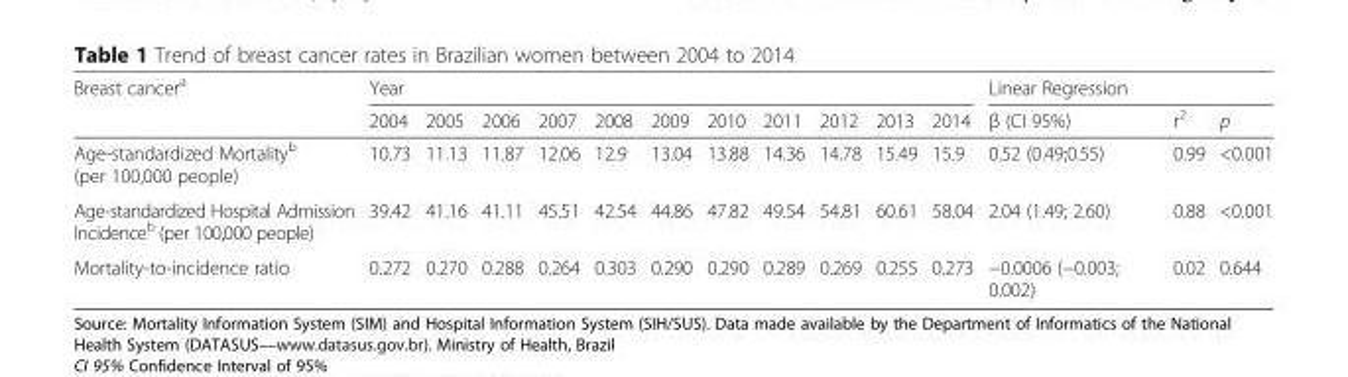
<table><thead><tr><td rowspan="2">Breast cancer<sup>a</sup></td><td colspan="11">Year</td><td colspan="3">Linear Regression</td></tr><tr><td>2004</td><td>2005</td><td>2006</td><td>2007</td><td>2008</td><td>2009</td><td>2010</td><td>2011</td><td>2012</td><td>2013</td><td>2014</td><td>β (CI 95%)</td><td>r<sup>2</sup></td><td>p</td></tr></thead><tbody><tr><td>Age-standardized Mortality<sup>b</sup> (per 100,000 people)</td><td>10.73</td><td>11.13</td><td>11.87</td><td>12.06</td><td>12.9</td><td>13.04</td><td>13.88</td><td>14.36</td><td>14.78</td><td>15.49</td><td>15.9</td><td>0.52 (0.49;0.55)</td><td>0.99</td><td>&lt;0.001</td></tr><tr><td>Age-standardized Hospital Admission Incidence<sup>b</sup> (per 100,000 people)</td><td>39.42</td><td>41.16</td><td>41.11</td><td>45.51</td><td>42.54</td><td>44.86</td><td>47.82</td><td>49.54</td><td>54.81</td><td>60.61</td><td>58.04</td><td>2.04 (1.49; 2.60)</td><td>0.88</td><td>&lt;0.001</td></tr><tr><td>Mortality-to-incidence ratio</td><td>0.272</td><td>0.270</td><td>0.288</td><td>0.264</td><td>0.303</td><td>0.290</td><td>0.290</td><td>0.289</td><td>0.269</td><td>0.255</td><td>0.273</td><td>−0.0006 (−0.003; 0.002)</td><td>0.02</td><td>0.644</td></tr></tbody></table>